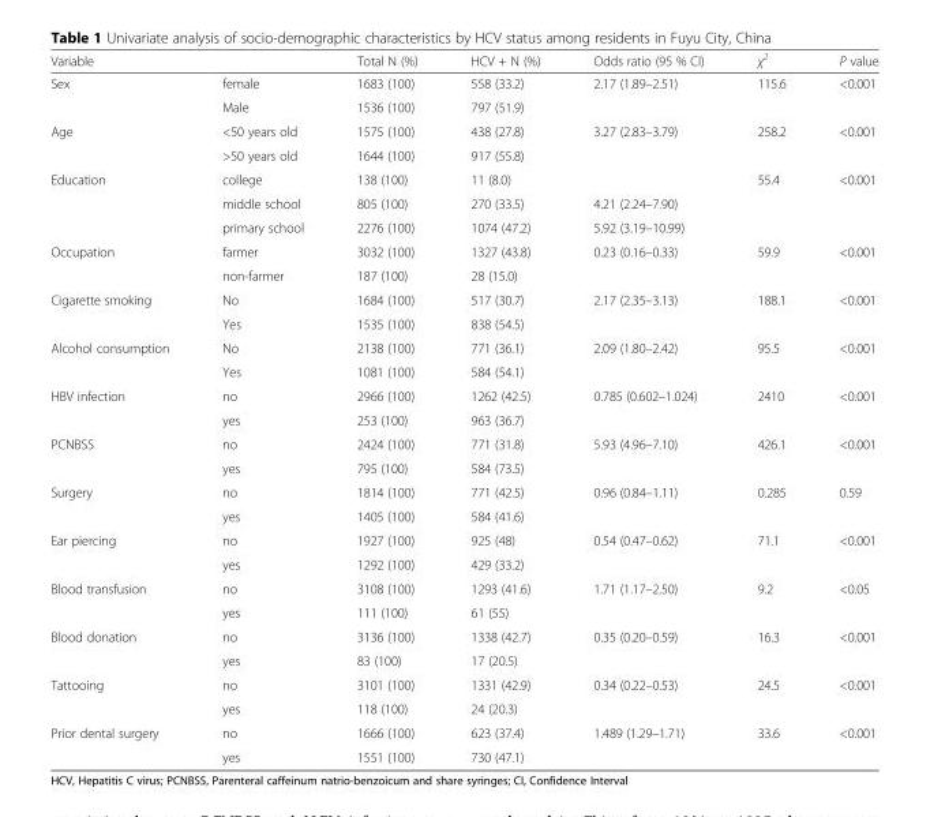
<table><thead><tr><td>Variable</td><td></td><td>Total N (%)</td><td>HCV + N (%)</td><td>Odds ratio (95 % CI)</td><td>χ<sup>2</sup></td><td>P value</td></tr></thead><tbody><tr><td rowspan="2">Sex</td><td>female</td><td>1683 (100)</td><td>558 (33.2)</td><td>2.17 (1.89–2.51)</td><td>115.6</td><td>&lt;0.001</td></tr><tr><td>Male</td><td>1536 (100)</td><td>797 (51.9)</td><td></td><td></td><td></td></tr><tr><td rowspan="2">Age</td><td>&lt;50 years old</td><td>1575 (100)</td><td>438 (27.8)</td><td>3.27 (2.83–3.79)</td><td>258.2</td><td>&lt;0.001</td></tr><tr><td>&gt;50 years old</td><td>1644 (100)</td><td>917 (55.8)</td><td></td><td></td><td></td></tr><tr><td rowspan="3">Education</td><td>college</td><td>138 (100)</td><td>11 (8.0)</td><td></td><td>55.4</td><td>&lt;0.001</td></tr><tr><td>middle school</td><td>805 (100)</td><td>270 (33.5)</td><td>4.21 (2.24–7.90)</td><td></td><td></td></tr><tr><td>primary school</td><td>2276 (100)</td><td>1074 (47.2)</td><td>5.92 (3.19–10.99)</td><td></td><td></td></tr><tr><td rowspan="2">Occupation</td><td>farmer</td><td>3032 (100)</td><td>1327 (43.8)</td><td>0.23 (0.16–0.33)</td><td>59.9</td><td>&lt;0.001</td></tr><tr><td>non-farmer</td><td>187 (100)</td><td>28 (15.0)</td><td></td><td></td><td></td></tr><tr><td rowspan="2">Cigarette smoking</td><td>No</td><td>1684 (100)</td><td>517 (30.7)</td><td>2.17 (2.35–3.13)</td><td>188.1</td><td>&lt;0.001</td></tr><tr><td>Yes</td><td>1535 (100)</td><td>838 (54.5)</td><td></td><td></td><td></td></tr><tr><td rowspan="2">Alcohol consumption</td><td>No</td><td>2138 (100)</td><td>771 (36.1)</td><td>2.09 (1.80–2.42)</td><td>95.5</td><td>&lt;0.001</td></tr><tr><td>Yes</td><td>1081 (100)</td><td>584 (54.1)</td><td></td><td></td><td></td></tr><tr><td rowspan="2">HBV infection</td><td>no</td><td>2966 (100)</td><td>1262 (42.5)</td><td>0.785 (0.602–1.024)</td><td>2410</td><td>&lt;0.001</td></tr><tr><td>yes</td><td>253 (100)</td><td>963 (36.7)</td><td></td><td></td><td></td></tr><tr><td rowspan="2">PCNBSS</td><td>no</td><td>2424 (100)</td><td>771 (31.8)</td><td>5.93 (4.96–7.10)</td><td>426.1</td><td>&lt;0.001</td></tr><tr><td>yes</td><td>795 (100)</td><td>584 (73.5)</td><td></td><td></td><td></td></tr><tr><td rowspan="2">Surgery</td><td>no</td><td>1814 (100)</td><td>771 (42.5)</td><td>0.96 (0.84–1.11)</td><td>0.285</td><td>0.59</td></tr><tr><td>yes</td><td>1405 (100)</td><td>584 (41.6)</td><td></td><td></td><td></td></tr><tr><td rowspan="2">Ear piercing</td><td>no</td><td>1927 (100)</td><td>925 (48)</td><td>0.54 (0.47–0.62)</td><td>71.1</td><td>&lt;0.001</td></tr><tr><td>yes</td><td>1292 (100)</td><td>429 (33.2)</td><td></td><td></td><td></td></tr><tr><td rowspan="2">Blood transfusion</td><td>no</td><td>3108 (100)</td><td>1293 (41.6)</td><td>1.71 (1.17–2.50)</td><td>9.2</td><td>&lt;0.05</td></tr><tr><td>yes</td><td>111 (100)</td><td>61 (55)</td><td></td><td></td><td></td></tr><tr><td rowspan="2">Blood donation</td><td>no</td><td>3136 (100)</td><td>1338 (42.7)</td><td>0.35 (0.20–0.59)</td><td>16.3</td><td>&lt;0.001</td></tr><tr><td>yes</td><td>83 (100)</td><td>17 (20.5)</td><td></td><td></td><td></td></tr><tr><td rowspan="2">Tattooing</td><td>no</td><td>3101 (100)</td><td>1331 (42.9)</td><td>0.34 (0.22–0.53)</td><td>24.5</td><td>&lt;0.001</td></tr><tr><td>yes</td><td>118 (100)</td><td>24 (20.3)</td><td></td><td></td><td></td></tr><tr><td rowspan="2">Prior dental surgery</td><td>no</td><td>1666 (100)</td><td>623 (37.4)</td><td>1.489 (1.29–1.71)</td><td>33.6</td><td>&lt;0.001</td></tr><tr><td>yes</td><td>1551 (100)</td><td>730 (47.1)</td><td></td><td></td><td></td></tr></tbody></table>